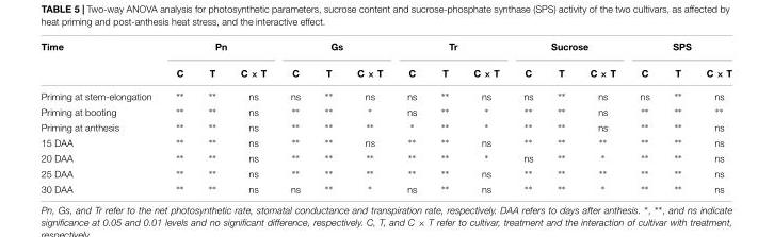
<table><thead><tr><td rowspan="2">Time</td><td colspan="3">Pn</td><td colspan="3">Gs</td><td colspan="3">Tr</td><td colspan="3">Sucrose</td><td colspan="3">SPS</td></tr><tr><td>C</td><td>T</td><td>C × T</td><td>C</td><td>T</td><td>C × T</td><td>C</td><td>T</td><td>C × T</td><td>C</td><td>T</td><td>C × T</td><td>C</td><td>T</td><td>C × T</td></tr></thead><tbody><tr><td>Priming at stem-elongation</td><td>∗∗</td><td>∗∗</td><td>ns</td><td>ns</td><td>∗∗</td><td>ns</td><td>ns</td><td>∗∗</td><td>ns</td><td>ns</td><td>∗∗</td><td>ns</td><td>ns</td><td>∗∗</td><td>ns</td></tr><tr><td>Priming at booting</td><td>∗∗</td><td>∗∗</td><td>ns</td><td>∗∗</td><td>∗∗</td><td>∗</td><td>ns</td><td>∗∗</td><td>∗</td><td>∗∗</td><td>∗∗</td><td>ns</td><td>∗∗</td><td>∗∗</td><td>∗∗</td></tr><tr><td>Priming at anthesis</td><td>∗∗</td><td>∗∗</td><td>ns</td><td>∗∗</td><td>∗∗</td><td>∗∗</td><td>∗</td><td>∗∗</td><td>∗</td><td>∗∗</td><td>∗∗</td><td>ns</td><td>∗∗</td><td>∗∗</td><td>ns</td></tr><tr><td>15 DAA</td><td>∗∗</td><td>∗∗</td><td>ns</td><td>∗∗</td><td>∗∗</td><td>ns</td><td>∗∗</td><td>∗∗</td><td>ns</td><td>∗∗</td><td>∗∗</td><td>∗∗</td><td>∗∗</td><td>∗∗</td><td>ns</td></tr><tr><td>20 DAA</td><td>∗∗</td><td>∗∗</td><td>ns</td><td>∗∗</td><td>∗∗</td><td>∗∗</td><td>∗∗</td><td>∗∗</td><td>∗</td><td>ns</td><td>∗∗</td><td>∗</td><td>∗∗</td><td>∗∗</td><td>ns</td></tr><tr><td>25 DAA</td><td>∗∗</td><td>∗∗</td><td>ns</td><td>∗∗</td><td>∗∗</td><td>∗∗</td><td>∗∗</td><td>∗∗</td><td>ns</td><td>∗∗</td><td>∗∗</td><td>∗∗</td><td>∗∗</td><td>∗∗</td><td>ns</td></tr><tr><td>30 DAA</td><td>∗∗</td><td>∗∗</td><td>ns</td><td>ns</td><td>∗∗</td><td>∗</td><td>ns</td><td>∗∗</td><td>ns</td><td>∗∗</td><td>∗∗</td><td>∗</td><td>∗∗</td><td>∗∗</td><td>ns</td></tr></tbody></table>